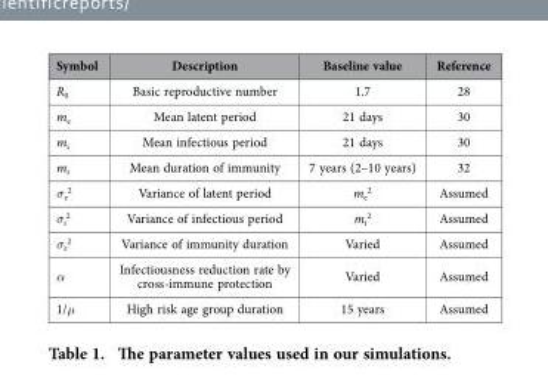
<table><thead><tr><td>Symbol</td><td>Description</td><td>Baseline value</td><td>Reference</td></tr></thead><tbody><tr><td>R<sub>0</sub></td><td>Basic reproductive number</td><td>1.7</td><td>28</td></tr><tr><td>m<sub>e</sub></td><td>Mean latent period</td><td>21 days</td><td>30</td></tr><tr><td>m<sub>i</sub></td><td>Mean infectious period</td><td>21 days</td><td>30</td></tr><tr><td>m<sub>r</sub></td><td>Mean duration of immunity</td><td>7 years (2–10 years)</td><td>32</td></tr><tr><td>σ<sub>e</sub> <sup>2</sup></td><td>Variance of latent period</td><td>m<sub>e</sub> <sup>2</sup></td><td>Assumed</td></tr><tr><td>σ<sub>i</sub> <sup>2</sup></td><td>Variance of infectious period</td><td>m<sub>i</sub> <sup>2</sup></td><td>Assumed</td></tr><tr><td>σ<sub>r</sub> <sup>2</sup></td><td>Variance of immunity duration</td><td>Varied</td><td>Assumed</td></tr><tr><td>α</td><td>Infectiousness reduction rate by cross-immune protection</td><td>Varied</td><td>Assumed</td></tr><tr><td>1/μ</td><td>High risk age group duration</td><td>15 years</td><td>Assumed</td></tr></tbody></table>